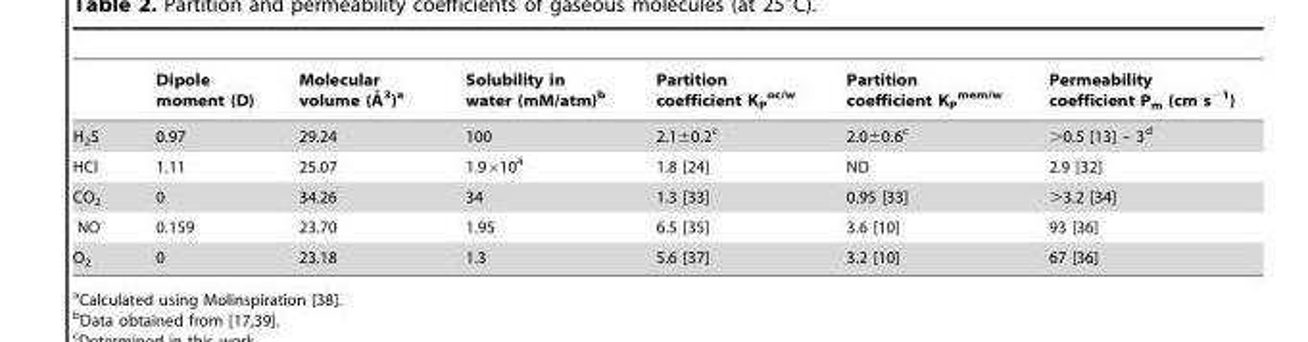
<table><thead><tr><td></td><td>Dipole moment (D)</td><td>Molecular volume (A˚ 3)a</td><td>Solubility in water (mM/atm)<sup>b</sup></td><td>Partition coefficient K<sub>P</sub> <sup>oc/w</sup></td><td>Partition coefficient K<sub>P</sub> <sup>mem/w</sup></td><td>Permeability coefficient P<sub>m</sub> (cm s<sup>−1</sup>)</td></tr></thead><tbody><tr><td>H<sub>2</sub>S</td><td>0.97</td><td>29.24</td><td>100</td><td>2.1±0.2<sup>c</sup></td><td>2.0±0.6<sup>c</sup></td><td>&gt;0.5 [13] – 3<sup>d</sup></td></tr><tr><td>HCl</td><td>1.11</td><td>25.07</td><td>1.9×10<sup>4</sup></td><td>1.8 [24]</td><td>ND</td><td>2.9 [32]</td></tr><tr><td>CO<sub>2</sub></td><td>0</td><td>34.26</td><td>34</td><td>1.3 [33]</td><td>0.95 [33]</td><td>&gt;3.2 [34]</td></tr><tr><td><sup>·</sup>NO</td><td>0.159</td><td>23.70</td><td>1.95</td><td>6.5 [35]</td><td>3.6 [10]</td><td>93 [36]</td></tr><tr><td>O<sub>2</sub></td><td>0</td><td>23.18</td><td>1.3</td><td>5.6 [37]</td><td>3.2 [10]</td><td>67 [36]</td></tr></tbody></table>